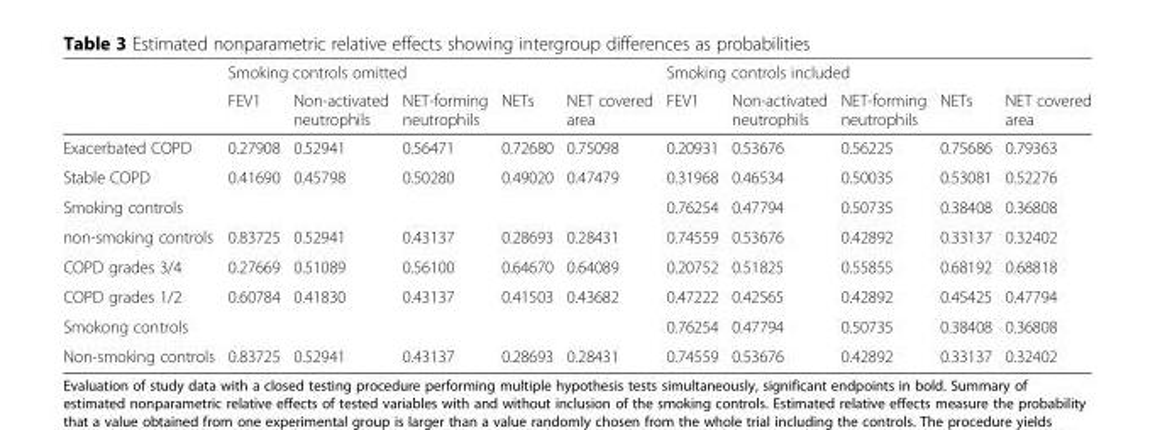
<table><thead><tr><td rowspan="2"></td><td colspan="5">Smoking controls omitted</td><td colspan="5">Smoking controls included</td></tr><tr><td>FEV1</td><td>Non-activated neutrophils</td><td>NET-forming neutrophils</td><td>NETs</td><td>NET covered area</td><td>FEV1</td><td>Non-activated neutrophils</td><td>NET-forming neutrophils</td><td>NETs</td><td>NET covered area</td></tr></thead><tbody><tr><td>Exacerbated COPD</td><td>0.27908</td><td>0.52941</td><td>0.56471</td><td>0.72680</td><td>0.75098</td><td>0.20931</td><td>0.53676</td><td>0.56225</td><td>0.75686</td><td>0.79363</td></tr><tr><td>Stable COPD</td><td>0.41690</td><td>0.45798</td><td>0.50280</td><td>0.49020</td><td>0.47479</td><td>0.31968</td><td>0.46534</td><td>0.50035</td><td>0.53081</td><td>0.52276</td></tr><tr><td>Smoking controls</td><td></td><td></td><td></td><td></td><td></td><td>0.76254</td><td>0.47794</td><td>0.50735</td><td>0.38408</td><td>0.36808</td></tr><tr><td>non-smoking controls</td><td>0.83725</td><td>0.52941</td><td>0.43137</td><td>0.28693</td><td>0.28431</td><td>0.74559</td><td>0.53676</td><td>0.42892</td><td>0.33137</td><td>0.32402</td></tr><tr><td>COPD grades 3/4</td><td>0.27669</td><td>0.51089</td><td>0.56100</td><td>0.64670</td><td>0.64089</td><td>0.20752</td><td>0.51825</td><td>0.55855</td><td>0.68192</td><td>0.68818</td></tr><tr><td>COPD grades 1/2</td><td>0.60784</td><td>0.41830</td><td>0.43137</td><td>0.41503</td><td>0.43682</td><td>0.47222</td><td>0.42565</td><td>0.42892</td><td>0.45425</td><td>0.47794</td></tr><tr><td>Smokong controls</td><td></td><td></td><td></td><td></td><td></td><td>0.76254</td><td>0.47794</td><td>0.50735</td><td>0.38408</td><td>0.36808</td></tr><tr><td>Non-smoking controls</td><td>0.83725</td><td>0.52941</td><td>0.43137</td><td>0.28693</td><td>0.28431</td><td>0.74559</td><td>0.53676</td><td>0.42892</td><td>0.33137</td><td>0.32402</td></tr></tbody></table>